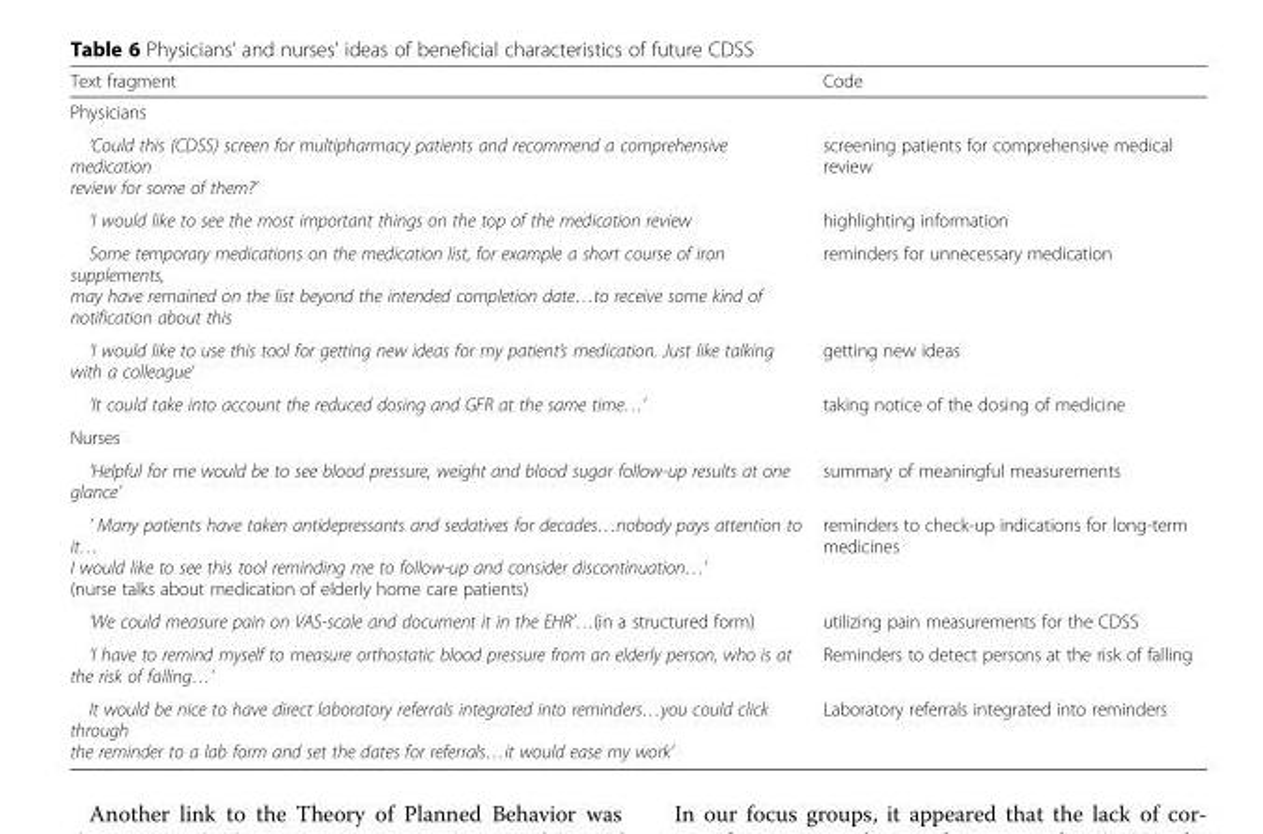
<table><thead><tr><td>Text fragment</td><td>Code</td></tr></thead><tbody><tr><td colspan="2">Physicians</td></tr><tr><td>‘Could this (CDSS) screen for multipharmacy patients and recommend a comprehensive medication review for some of them?’</td><td>screening patients for comprehensive medical review</td></tr><tr><td>‘I would like to see the most important things on the top of the medication review</td><td>highlighting information</td></tr><tr><td>Some temporary medications on the medication list, for example a short course of iron supplements, may have remained on the list beyond the intended completion date…to receive some kind of notification about this</td><td>reminders for unnecessary medication</td></tr><tr><td>‘I would like to use this tool for getting new ideas for my patient’s medication. Just like talking with a colleague’</td><td>getting new ideas</td></tr><tr><td>‘It could take into account the reduced dosing and GFR at the same time…’</td><td>taking notice of the dosing of medicine</td></tr><tr><td colspan="2">Nurses</td></tr><tr><td>‘Helpful for me would be to see blood pressure, weight and blood sugar follow-up results at one glance’</td><td>summary of meaningful measurements</td></tr><tr><td>&#x27; Many patients have taken antidepressants and sedatives for decades…nobody pays attention to it… I would like to see this tool reminding me to follow-up and consider discontinuation…’ (nurse talks about medication of elderly home care patients)</td><td>reminders to check-up indications for long-term medicines</td></tr><tr><td>‘We could measure pain on VAS-scale and document it in the EHR’…(in a structured form)</td><td>utilizing pain measurements for the CDSS</td></tr><tr><td>‘I have to remind myself to measure orthostatic blood pressure from an elderly person, who is at the risk of falling…’</td><td>Reminders to detect persons at the risk of falling</td></tr><tr><td>It would be nice to have direct laboratory referrals integrated into reminders…you could click through the reminder to a lab form and set the dates for referrals…it would ease my work’</td><td>Laboratory referrals integrated into reminders</td></tr></tbody></table>